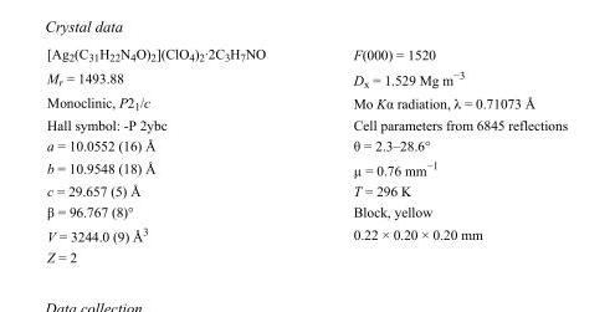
<table><tbody><tr><td>[Ag<sub>2</sub>(C<sub>31</sub>H<sub>22</sub>N<sub>4</sub>O)<sub>2</sub>](ClO<sub>4</sub>)<sub>2</sub>·2C<sub>3</sub>H<sub>7</sub>NO</td><td>F(000) = 1520</td></tr><tr><td>M<sub>r</sub> = 1493.88</td><td>D<sub>x</sub> = 1.529 Mg m<sup>−3</sup></td></tr><tr><td>Monoclinic, P2<sub>1</sub>/c</td><td>Mo Kα radiation, λ = 0.71073 Å</td></tr><tr><td>Hall symbol: -P 2ybc</td><td>Cell parameters from 6845 reflections</td></tr><tr><td>a = 10.0552 (16) Å</td><td>θ = 2.3–28.6°</td></tr><tr><td>b = 10.9548 (18) Å</td><td>µ = 0.76 mm<sup>−1</sup></td></tr><tr><td>c = 29.657 (5) Å</td><td>T = 296 K</td></tr><tr><td>β = 96.767 (8)°</td><td>Block, yellow</td></tr><tr><td>V = 3244.0 (9) Å<sup>3</sup></td><td>0.22 × 0.20 × 0.20 mm</td></tr><tr><td>Z = 2</td><td></td></tr></tbody></table>